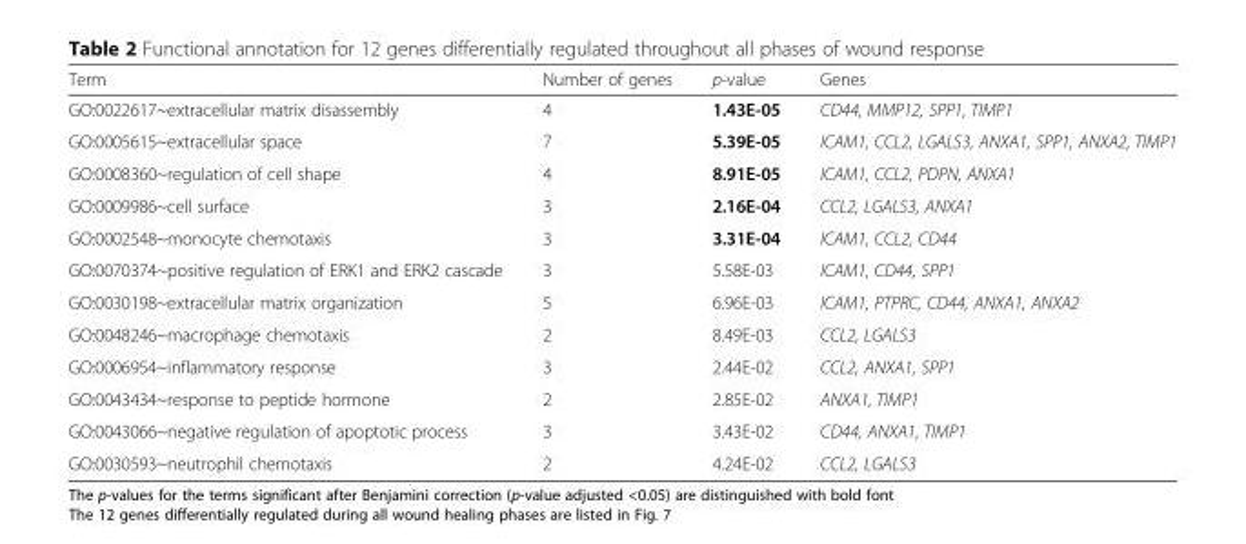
<table><thead><tr><td>Term</td><td>Number of genes</td><td>p-value</td><td>Genes</td></tr></thead><tbody><tr><td>GO:0022617~extracellular matrix disassembly</td><td>4</td><td>1.43E-05</td><td>CD44, MMP12, SPP1, TIMP1</td></tr><tr><td>GO:0005615~extracellular space</td><td>7</td><td>5.39E-05</td><td>ICAM1, CCL2, LGALS3, ANXA1, SPP1, ANXA2, TIMP1</td></tr><tr><td>GO:0008360~regulation of cell shape</td><td>4</td><td>8.91E-05</td><td>ICAM1, CCL2, PDPN, ANXA1</td></tr><tr><td>GO:0009986~cell surface</td><td>3</td><td>2.16E-04</td><td>CCL2, LGALS3, ANXA1</td></tr><tr><td>GO:0002548~monocyte chemotaxis</td><td>3</td><td>3.31E-04</td><td>ICAM1, CCL2, CD44</td></tr><tr><td>GO:0070374~positive regulation of ERK1 and ERK2 cascade</td><td>3</td><td>5.58E-03</td><td>ICAM1, CD44, SPP1</td></tr><tr><td>GO:0030198~extracellular matrix organization</td><td>5</td><td>6.96E-03</td><td>ICAM1, PTPRC, CD44, ANXA1, ANXA2</td></tr><tr><td>GO:0048246~macrophage chemotaxis</td><td>2</td><td>8.49E-03</td><td>CCL2, LGALS3</td></tr><tr><td>GO:0006954~inflammatory response</td><td>3</td><td>2.44E-02</td><td>CCL2, ANXA1, SPP1</td></tr><tr><td>GO:0043434~response to peptide hormone</td><td>2</td><td>2.85E-02</td><td>ANXA1, TIMP1</td></tr><tr><td>GO:0043066~negative regulation of apoptotic process</td><td>3</td><td>3.43E-02</td><td>CD44, ANXA1, TIMP1</td></tr><tr><td>GO:0030593~neutrophil chemotaxis</td><td>2</td><td>4.24E-02</td><td>CCL2, LGALS3</td></tr></tbody></table>